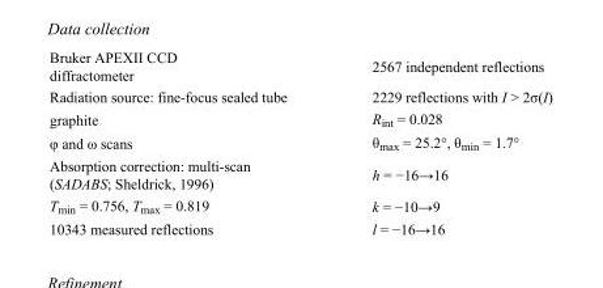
<table><tbody><tr><td>Bruker APEXII CCD diffractometer</td><td>2567 independent reflections</td></tr><tr><td>Radiation source: fine-focus sealed tube</td><td>2229 reflections with I &gt; 2σ(I)</td></tr><tr><td>graphite</td><td>R<sub>int</sub> = 0.028</td></tr><tr><td>φ and ω scans</td><td>θ<sub>max</sub> = 25.2°, θ<sub>min</sub> = 1.7°</td></tr><tr><td>Absorption correction: multi-scan (SADABS; Sheldrick, 1996)</td><td>h = −16→16</td></tr><tr><td>T<sub>min</sub> = 0.756, T<sub>max</sub> = 0.819</td><td>k = −10→9</td></tr><tr><td>10343 measured reflections</td><td>l = −16→16</td></tr></tbody></table>